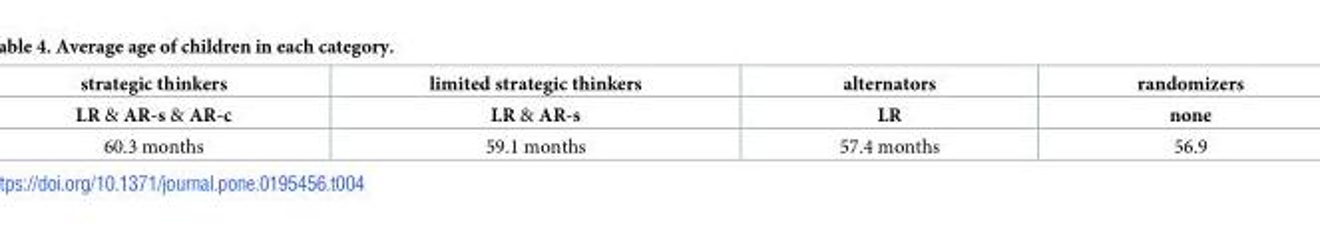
<table><thead><tr><td>strategic thinkers</td><td>limited strategic thinkers</td><td>alternators</td><td>randomizers</td></tr></thead><tbody><tr><td>LR &amp; AR-s &amp; AR-c</td><td>LR &amp; AR-s</td><td>LR</td><td>none</td></tr><tr><td>60.3 months</td><td>59.1 months</td><td>57.4 months</td><td>56.9</td></tr></tbody></table>